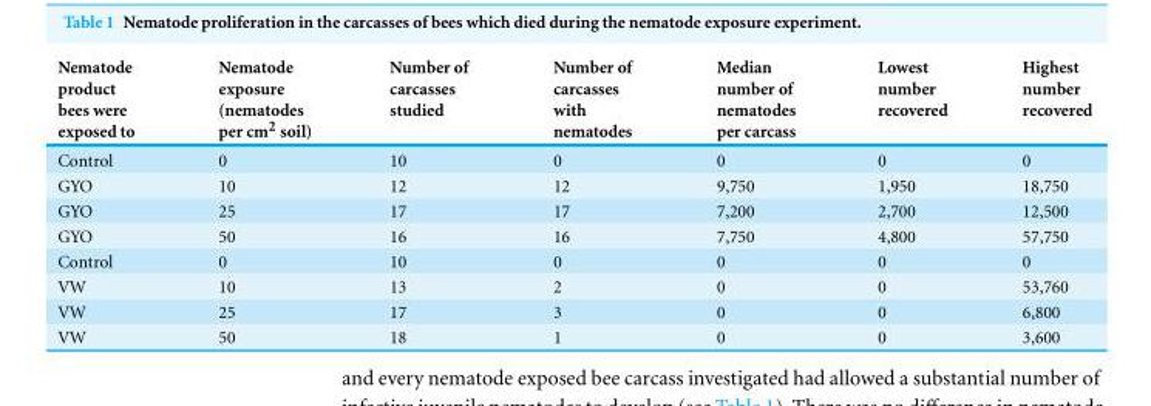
<table><thead><tr><td>Nematode product bees were exposed to</td><td>Nematode exposure (nematodes per cm<sup>2</sup> soil)</td><td>Number of carcasses studied</td><td>Number of carcasses with nematodes</td><td>Median number of nematodes per carcass</td><td>Lowest number recovered</td><td>Highest number recovered</td></tr></thead><tbody><tr><td>Control</td><td>0</td><td>10</td><td>0</td><td>0</td><td>0</td><td>0</td></tr><tr><td>GYO</td><td>10</td><td>12</td><td>12</td><td>9,750</td><td>1,950</td><td>18,750</td></tr><tr><td>GYO</td><td>25</td><td>17</td><td>17</td><td>7,200</td><td>2,700</td><td>12,500</td></tr><tr><td>GYO</td><td>50</td><td>16</td><td>16</td><td>7,750</td><td>4,800</td><td>57,750</td></tr><tr><td>Control</td><td>0</td><td>10</td><td>0</td><td>0</td><td>0</td><td>0</td></tr><tr><td>VW</td><td>10</td><td>13</td><td>2</td><td>0</td><td>0</td><td>53,760</td></tr><tr><td>VW</td><td>25</td><td>17</td><td>3</td><td>0</td><td>0</td><td>6,800</td></tr><tr><td>VW</td><td>50</td><td>18</td><td>1</td><td>0</td><td>0</td><td>3,600</td></tr></tbody></table>